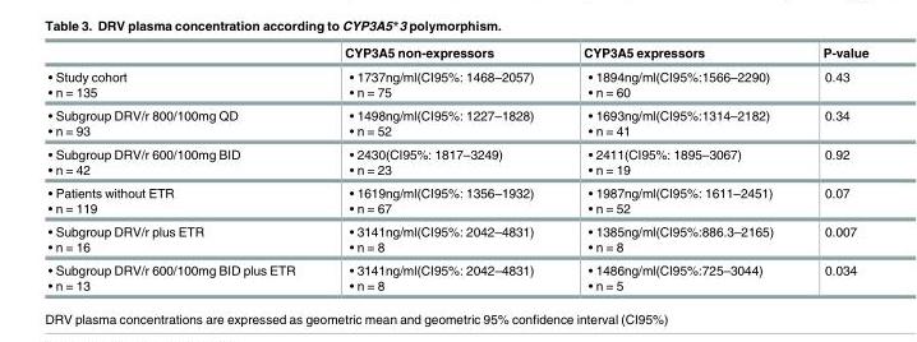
<table><thead><tr><td></td><td>CYP3A5 non-expressors</td><td>CYP3A5 expressors</td><td>P-value</td></tr></thead><tbody><tr><td>• Study cohort • n = 135</td><td>• 1737ng/ml(CI95%: 1468–2057) • n = 75</td><td>• 1894ng/ml(CI95%:1566–2290) • n = 60</td><td>0.43</td></tr><tr><td>• Subgroup DRV/r 800/100mg QD • n = 93</td><td>• 1498ng/ml(CI95%: 1227–1828) • n = 52</td><td>• 1693ng/ml(CI95%:1314–2182) • n = 41</td><td>0.34</td></tr><tr><td>• Subgroup DRV/r 600/100mg BID • n = 42</td><td>• 2430(CI95%: 1817–3249) • n = 23</td><td>• 2411(CI95%: 1895–3067) • n = 19</td><td>0.92</td></tr><tr><td>• Patients without ETR • n = 119</td><td>• 1619ng/ml(CI95%: 1356–1932) • n = 67</td><td>• 1987ng/ml(CI95%: 1611–2451) • n = 52</td><td>0.07</td></tr><tr><td>• Subgroup DRV/r plus ETR • n = 16</td><td>• 3141ng/ml(CI95%: 2042–4831) • n = 8</td><td>• 1385ng/ml(CI95%:886.3–2165) • n = 8</td><td>0.007</td></tr><tr><td>• Subgroup DRV/r 600/100mg BID plus ETR • n = 13</td><td>• 3141ng/ml(CI95%: 2042–4831) • n = 8</td><td>• 1486ng/ml(CI95%:725–3044) • n = 5</td><td>0.034</td></tr></tbody></table>